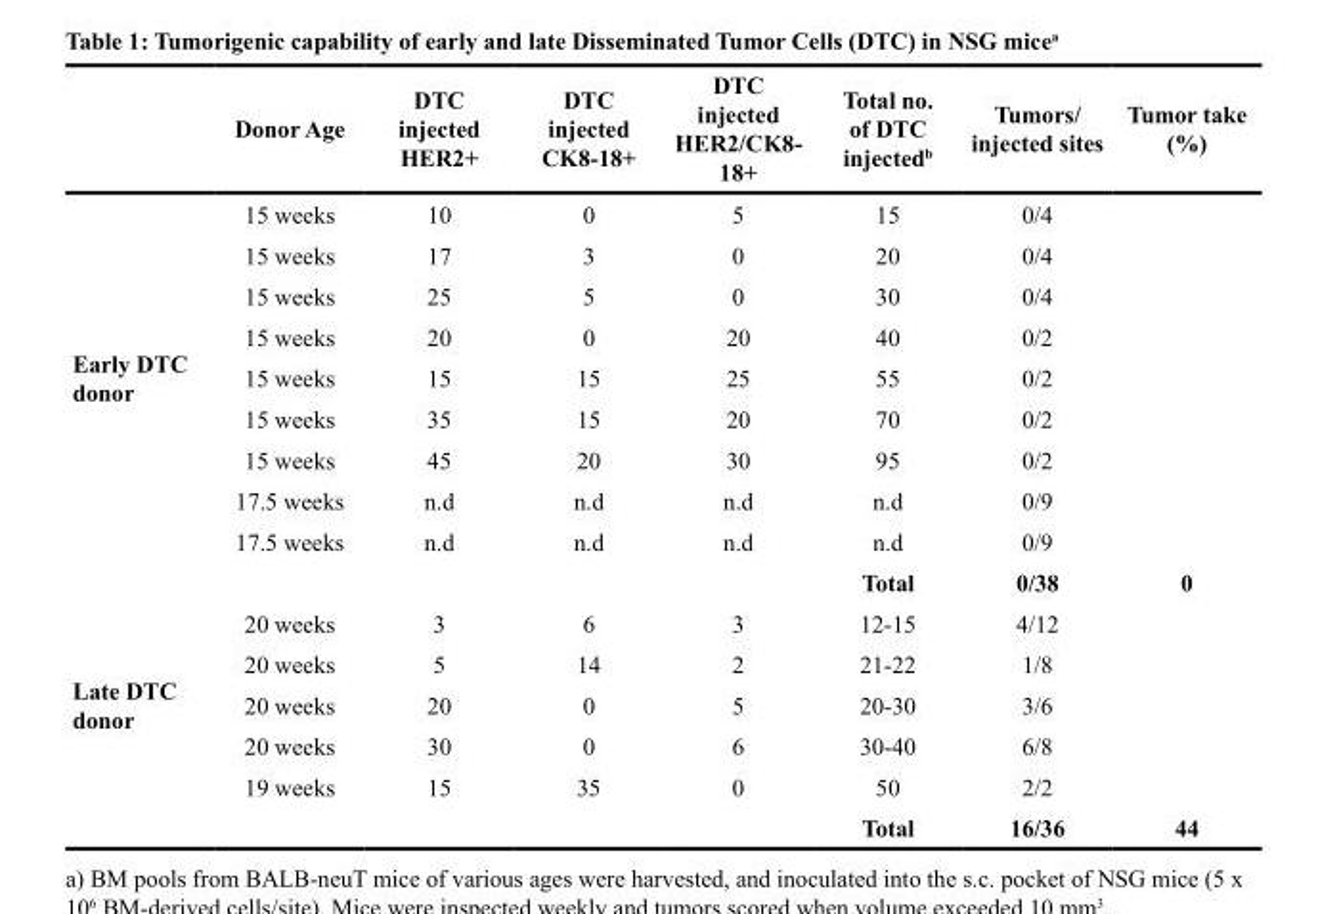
<table><thead><tr><td></td><td>Donor Age</td><td>DTC injected HER2+</td><td>DTC injected CK8-18+</td><td>DTC injected HER2/CK8- 18+</td><td>Total no. of DTC injected<sup>b</sup></td><td>Tumors/ injected sites</td><td>Tumor take (%)</td></tr></thead><tbody><tr><td rowspan="10">Early DTC donor</td><td>15 weeks</td><td>10</td><td>0</td><td>5</td><td>15</td><td>0/4</td><td></td></tr><tr><td>15 weeks</td><td>17</td><td>3</td><td>0</td><td>20</td><td>0/4</td><td></td></tr><tr><td>15 weeks</td><td>25</td><td>5</td><td>0</td><td>30</td><td>0/4</td><td></td></tr><tr><td>15 weeks</td><td>20</td><td>0</td><td>20</td><td>40</td><td>0/2</td><td></td></tr><tr><td>15 weeks</td><td>15</td><td>15</td><td>25</td><td>55</td><td>0/2</td><td></td></tr><tr><td>15 weeks</td><td>35</td><td>15</td><td>20</td><td>70</td><td>0/2</td><td></td></tr><tr><td>15 weeks</td><td>45</td><td>20</td><td>30</td><td>95</td><td>0/2</td><td></td></tr><tr><td>17.5 weeks</td><td>n.d</td><td>n.d</td><td>n.d</td><td>n.d</td><td>0/9</td><td></td></tr><tr><td>17.5 weeks</td><td>n.d</td><td>n.d</td><td>n.d</td><td>n.d</td><td>0/9</td><td></td></tr><tr><td></td><td></td><td></td><td></td><td>Total</td><td>0/38</td><td>0</td></tr><tr><td rowspan="6">Late DTC donor</td><td>20 weeks</td><td>3</td><td>6</td><td>3</td><td>12-15</td><td>4/12</td><td></td></tr><tr><td>20 weeks</td><td>5</td><td>14</td><td>2</td><td>21-22</td><td>1/8</td><td></td></tr><tr><td>20 weeks</td><td>20</td><td>0</td><td>5</td><td>20-30</td><td>3/6</td><td></td></tr><tr><td>20 weeks</td><td>30</td><td>0</td><td>6</td><td>30-40</td><td>6/8</td><td></td></tr><tr><td>19 weeks</td><td>15</td><td>35</td><td>0</td><td>50</td><td>2/2</td><td></td></tr><tr><td></td><td></td><td></td><td></td><td>Total</td><td>16/36</td><td>44</td></tr></tbody></table>